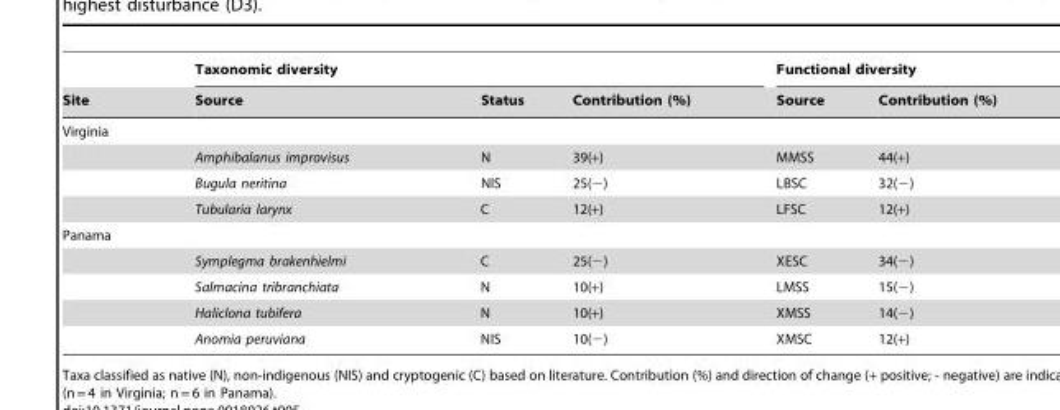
<table><thead><tr><td rowspan="2">Site</td><td colspan="3">Taxonomic diversity</td><td colspan="2">Functional diversity</td></tr><tr><td>Source</td><td>Status</td><td>Contribution (%)</td><td>Source</td><td>Contribution (%)</td></tr></thead><tbody><tr><td colspan="6">Virginia</td></tr><tr><td></td><td>Amphibalanus improvisus</td><td>N</td><td>39(+)</td><td>MMSS</td><td>44(+)</td></tr><tr><td></td><td>Bugula neritina</td><td>NIS</td><td>25(−)</td><td>LBSC</td><td>32(−)</td></tr><tr><td></td><td>Tubularia larynx</td><td>C</td><td>12(+)</td><td>LFSC</td><td>12(+)</td></tr><tr><td colspan="6">Panama</td></tr><tr><td></td><td>Symplegma brakenhielmi</td><td>C</td><td>25(−)</td><td>XESC</td><td>34(−)</td></tr><tr><td></td><td>Salmacina tribranchiata</td><td>N</td><td>10(+)</td><td>LMSS</td><td>15(−)</td></tr><tr><td></td><td>Haliclona tubifera</td><td>N</td><td>10(+)</td><td>XMSS</td><td>14(−)</td></tr><tr><td></td><td>Anomia peruviana</td><td>NIS</td><td>10(−)</td><td>XMSC</td><td>12(+)</td></tr></tbody></table>